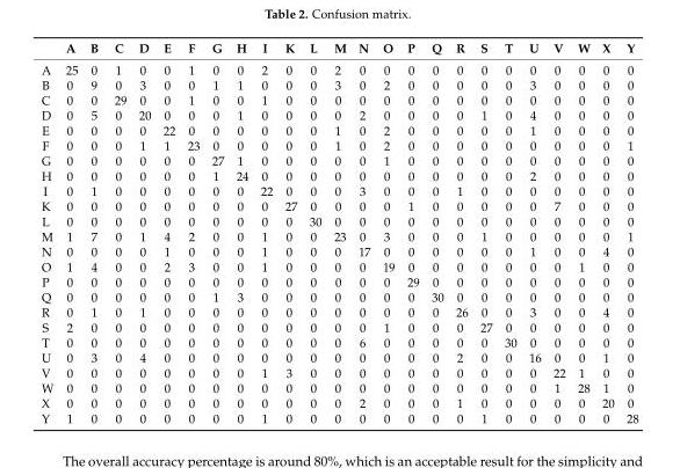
<table><thead><tr><td></td><td>A</td><td>B</td><td>C</td><td>D</td><td>E</td><td>F</td><td>G</td><td>H</td><td>I</td><td>K</td><td>L</td><td>M</td><td>N</td><td>O</td><td>P</td><td>Q</td><td>R</td><td>S</td><td>T</td><td>U</td><td>V</td><td>W</td><td>X</td><td>Y</td></tr></thead><tbody><tr><td>A</td><td>25</td><td>0</td><td>1</td><td>0</td><td>0</td><td>1</td><td>0</td><td>0</td><td>2</td><td>0</td><td>0</td><td>2</td><td>0</td><td>0</td><td>0</td><td>0</td><td>0</td><td>0</td><td>0</td><td>0</td><td>0</td><td>0</td><td>0</td><td>0</td></tr><tr><td>B</td><td>0</td><td>9</td><td>0</td><td>3</td><td>0</td><td>0</td><td>1</td><td>1</td><td>0</td><td>0</td><td>0</td><td>3</td><td>0</td><td>2</td><td>0</td><td>0</td><td>0</td><td>0</td><td>0</td><td>3</td><td>0</td><td>0</td><td>0</td><td>0</td></tr><tr><td>C</td><td>0</td><td>0</td><td>29</td><td>0</td><td>0</td><td>1</td><td>0</td><td>0</td><td>1</td><td>0</td><td>0</td><td>0</td><td>0</td><td>0</td><td>0</td><td>0</td><td>0</td><td>0</td><td>0</td><td>0</td><td>0</td><td>0</td><td>0</td><td>0</td></tr><tr><td>D</td><td>0</td><td>5</td><td>0</td><td>20</td><td>0</td><td>0</td><td>0</td><td>1</td><td>0</td><td>0</td><td>0</td><td>0</td><td>2</td><td>0</td><td>0</td><td>0</td><td>0</td><td>1</td><td>0</td><td>4</td><td>0</td><td>0</td><td>0</td><td>0</td></tr><tr><td>E</td><td>0</td><td>0</td><td>0</td><td>0</td><td>22</td><td>0</td><td>0</td><td>0</td><td>0</td><td>0</td><td>0</td><td>1</td><td>0</td><td>2</td><td>0</td><td>0</td><td>0</td><td>0</td><td>0</td><td>1</td><td>0</td><td>0</td><td>0</td><td>0</td></tr><tr><td>F</td><td>0</td><td>0</td><td>0</td><td>1</td><td>1</td><td>23</td><td>0</td><td>0</td><td>0</td><td>0</td><td>0</td><td>1</td><td>0</td><td>2</td><td>0</td><td>0</td><td>0</td><td>0</td><td>0</td><td>0</td><td>0</td><td>0</td><td>0</td><td>1</td></tr><tr><td>G</td><td>0</td><td>0</td><td>0</td><td>0</td><td>0</td><td>0</td><td>27</td><td>1</td><td>0</td><td>0</td><td>0</td><td>0</td><td>0</td><td>1</td><td>0</td><td>0</td><td>0</td><td>0</td><td>0</td><td>0</td><td>0</td><td>0</td><td>0</td><td>0</td></tr><tr><td>H</td><td>0</td><td>0</td><td>0</td><td>0</td><td>0</td><td>0</td><td>1</td><td>24</td><td>0</td><td>0</td><td>0</td><td>0</td><td>0</td><td>0</td><td>0</td><td>0</td><td>0</td><td>0</td><td>0</td><td>2</td><td>0</td><td>0</td><td>0</td><td>0</td></tr><tr><td>I</td><td>0</td><td>1</td><td>0</td><td>0</td><td>0</td><td>0</td><td>0</td><td>0</td><td>22</td><td>0</td><td>0</td><td>0</td><td>3</td><td>0</td><td>0</td><td>0</td><td>1</td><td>0</td><td>0</td><td>0</td><td>0</td><td>0</td><td>0</td><td>0</td></tr><tr><td>K</td><td>0</td><td>0</td><td>0</td><td>0</td><td>0</td><td>0</td><td>0</td><td>0</td><td>0</td><td>27</td><td>0</td><td>0</td><td>0</td><td>0</td><td>1</td><td>0</td><td>0</td><td>0</td><td>0</td><td>0</td><td>7</td><td>0</td><td>0</td><td>0</td></tr><tr><td>L</td><td>0</td><td>0</td><td>0</td><td>0</td><td>0</td><td>0</td><td>0</td><td>0</td><td>0</td><td>0</td><td>30</td><td>0</td><td>0</td><td>0</td><td>0</td><td>0</td><td>0</td><td>0</td><td>0</td><td>0</td><td>0</td><td>0</td><td>0</td><td>0</td></tr><tr><td>M</td><td>1</td><td>7</td><td>0</td><td>1</td><td>4</td><td>2</td><td>0</td><td>0</td><td>1</td><td>0</td><td>0</td><td>23</td><td>0</td><td>3</td><td>0</td><td>0</td><td>0</td><td>1</td><td>0</td><td>0</td><td>0</td><td>0</td><td>0</td><td>1</td></tr><tr><td>N</td><td>0</td><td>0</td><td>0</td><td>0</td><td>1</td><td>0</td><td>0</td><td>0</td><td>1</td><td>0</td><td>0</td><td>0</td><td>17</td><td>0</td><td>0</td><td>0</td><td>0</td><td>0</td><td>0</td><td>1</td><td>0</td><td>0</td><td>4</td><td>0</td></tr><tr><td>O</td><td>1</td><td>4</td><td>0</td><td>0</td><td>2</td><td>3</td><td>0</td><td>0</td><td>1</td><td>0</td><td>0</td><td>0</td><td>0</td><td>19</td><td>0</td><td>0</td><td>0</td><td>0</td><td>0</td><td>0</td><td>0</td><td>1</td><td>0</td><td>0</td></tr><tr><td>P</td><td>0</td><td>0</td><td>0</td><td>0</td><td>0</td><td>0</td><td>0</td><td>0</td><td>0</td><td>0</td><td>0</td><td>0</td><td>0</td><td>0</td><td>29</td><td>0</td><td>0</td><td>0</td><td>0</td><td>0</td><td>0</td><td>0</td><td>0</td><td>0</td></tr><tr><td>Q</td><td>0</td><td>0</td><td>0</td><td>0</td><td>0</td><td>0</td><td>1</td><td>3</td><td>0</td><td>0</td><td>0</td><td>0</td><td>0</td><td>0</td><td>0</td><td>30</td><td>0</td><td>0</td><td>0</td><td>0</td><td>0</td><td>0</td><td>0</td><td>0</td></tr><tr><td>R</td><td>0</td><td>1</td><td>0</td><td>1</td><td>0</td><td>0</td><td>0</td><td>0</td><td>0</td><td>0</td><td>0</td><td>0</td><td>0</td><td>0</td><td>0</td><td>0</td><td>26</td><td>0</td><td>0</td><td>3</td><td>0</td><td>0</td><td>4</td><td>0</td></tr><tr><td>S</td><td>2</td><td>0</td><td>0</td><td>0</td><td>0</td><td>0</td><td>0</td><td>0</td><td>0</td><td>0</td><td>0</td><td>0</td><td>0</td><td>1</td><td>0</td><td>0</td><td>0</td><td>27</td><td>0</td><td>0</td><td>0</td><td>0</td><td>0</td><td>0</td></tr><tr><td>T</td><td>0</td><td>0</td><td>0</td><td>0</td><td>0</td><td>0</td><td>0</td><td>0</td><td>0</td><td>0</td><td>0</td><td>0</td><td>6</td><td>0</td><td>0</td><td>0</td><td>0</td><td>0</td><td>30</td><td>0</td><td>0</td><td>0</td><td>0</td><td>0</td></tr><tr><td>U</td><td>0</td><td>3</td><td>0</td><td>4</td><td>0</td><td>0</td><td>0</td><td>0</td><td>0</td><td>0</td><td>0</td><td>0</td><td>0</td><td>0</td><td>0</td><td>0</td><td>2</td><td>0</td><td>0</td><td>16</td><td>0</td><td>0</td><td>1</td><td>0</td></tr><tr><td>V</td><td>0</td><td>0</td><td>0</td><td>0</td><td>0</td><td>0</td><td>0</td><td>0</td><td>1</td><td>3</td><td>0</td><td>0</td><td>0</td><td>0</td><td>0</td><td>0</td><td>0</td><td>0</td><td>0</td><td>0</td><td>22</td><td>1</td><td>0</td><td>0</td></tr><tr><td>W</td><td>0</td><td>0</td><td>0</td><td>0</td><td>0</td><td>0</td><td>0</td><td>0</td><td>0</td><td>0</td><td>0</td><td>0</td><td>0</td><td>0</td><td>0</td><td>0</td><td>0</td><td>0</td><td>0</td><td>0</td><td>1</td><td>28</td><td>1</td><td>0</td></tr><tr><td>X</td><td>0</td><td>0</td><td>0</td><td>0</td><td>0</td><td>0</td><td>0</td><td>0</td><td>0</td><td>0</td><td>0</td><td>0</td><td>2</td><td>0</td><td>0</td><td>0</td><td>1</td><td>0</td><td>0</td><td>0</td><td>0</td><td>0</td><td>20</td><td>0</td></tr><tr><td>Y</td><td>1</td><td>0</td><td>0</td><td>0</td><td>0</td><td>0</td><td>0</td><td>0</td><td>1</td><td>0</td><td>0</td><td>0</td><td>0</td><td>0</td><td>0</td><td>0</td><td>0</td><td>1</td><td>0</td><td>0</td><td>0</td><td>0</td><td>0</td><td>28</td></tr></tbody></table>